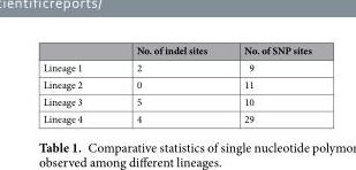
<table><thead><tr><td></td><td>No. of indel sites</td><td>No. of SNP sites</td></tr></thead><tbody><tr><td>Lineage 1</td><td>2</td><td>9</td></tr><tr><td>Lineage 2</td><td>0</td><td>11</td></tr><tr><td>Lineage 3</td><td>5</td><td>10</td></tr><tr><td>Lineage 4</td><td>4</td><td>29</td></tr></tbody></table>